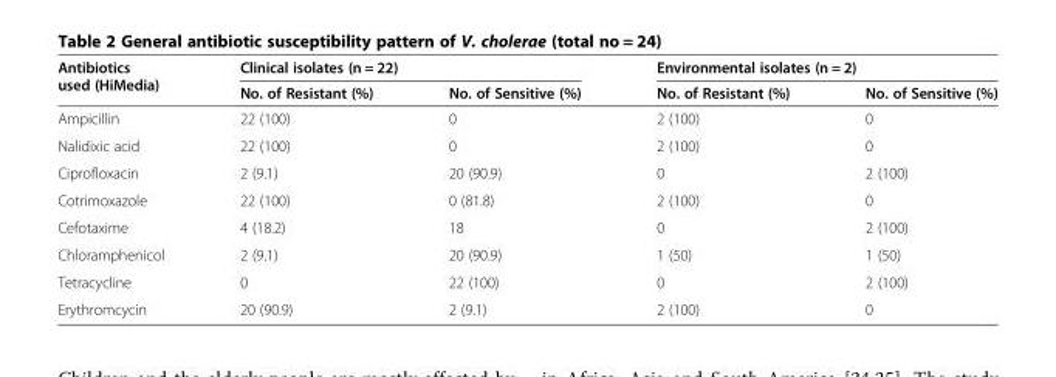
<table><thead><tr><td rowspan="2">Antibiotics used (HiMedia)</td><td colspan="2">Clinical isolates (n = 22)</td><td colspan="2">Environmental isolates (n = 2)</td></tr><tr><td>No. of Resistant (%)</td><td>No. of Sensitive (%)</td><td>No. of Resistant (%)</td><td>No. of Sensitive (%)</td></tr></thead><tbody><tr><td>Ampicillin</td><td>22 (100)</td><td>0</td><td>2 (100)</td><td>0</td></tr><tr><td>Nalidixic acid</td><td>22 (100)</td><td>0</td><td>2 (100)</td><td>0</td></tr><tr><td>Ciprofloxacin</td><td>2 (9.1)</td><td>20 (90.9)</td><td>0</td><td>2 (100)</td></tr><tr><td>Cotrimoxazole</td><td>22 (100)</td><td>0 (81.8)</td><td>2 (100)</td><td>0</td></tr><tr><td>Cefotaxime</td><td>4 (18.2)</td><td>18</td><td>0</td><td>2 (100)</td></tr><tr><td>Chloramphenicol</td><td>2 (9.1)</td><td>20 (90.9)</td><td>1 (50)</td><td>1 (50)</td></tr><tr><td>Tetracycline</td><td>0</td><td>22 (100)</td><td>0</td><td>2 (100)</td></tr><tr><td>Erythromcycin</td><td>20 (90.9)</td><td>2 (9.1)</td><td>2 (100)</td><td>0</td></tr></tbody></table>